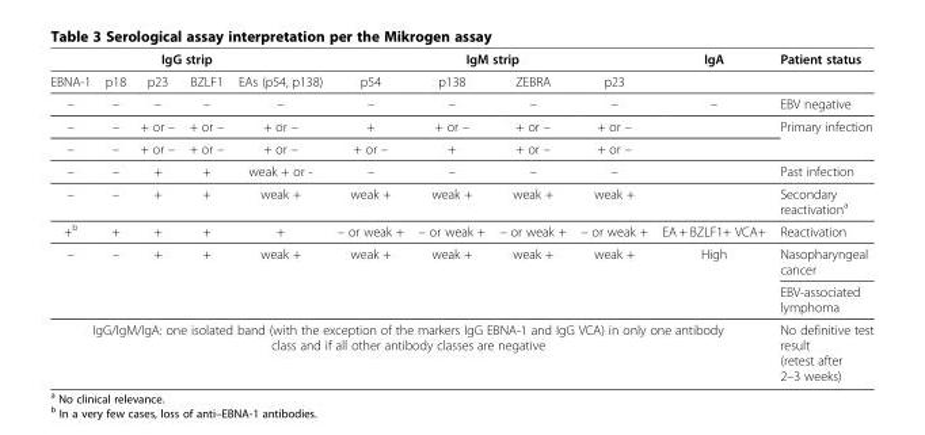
<table><thead><tr><td colspan="5">IgG strip</td><td colspan="4">IgM strip</td><td rowspan="2">IgA</td><td rowspan="2">Patient status</td></tr><tr><td>EBNA-1</td><td>p18</td><td>p23</td><td>BZLF1</td><td>EAs (p54, p138)</td><td>p54</td><td>p138</td><td>ZEBRA</td><td>p23</td></tr></thead><tbody><tr><td>–</td><td>–</td><td>–</td><td>–</td><td>–</td><td>–</td><td>–</td><td>–</td><td>–</td><td>–</td><td>EBV negative</td></tr><tr><td>–</td><td>–</td><td>+ or –</td><td>+ or –</td><td>+ or –</td><td>+</td><td>+ or –</td><td>+ or –</td><td>+ or –</td><td></td><td rowspan="2">Primary infection</td></tr><tr><td>–</td><td>–</td><td>+ or –</td><td>+ or –</td><td>+ or –</td><td>+ or –</td><td>+</td><td>+ or –</td><td>+ or –</td><td></td></tr><tr><td>–</td><td>–</td><td>+</td><td>+</td><td>weak + or -</td><td>–</td><td>–</td><td>–</td><td>–</td><td></td><td>Past infection</td></tr><tr><td>–</td><td>–</td><td>+</td><td>+</td><td>weak +</td><td>weak +</td><td>weak +</td><td>weak +</td><td>weak +</td><td></td><td>Secondary reactivation<sup>a</sup></td></tr><tr><td>+<sup>b</sup></td><td>+</td><td>+</td><td>+</td><td>+</td><td>– or weak +</td><td>– or weak +</td><td>– or weak +</td><td>– or weak +</td><td>EA + BZLF1+ VCA+</td><td>Reactivation</td></tr><tr><td rowspan="2">–</td><td rowspan="2">–</td><td rowspan="2">+</td><td rowspan="2">+</td><td rowspan="2">weak +</td><td rowspan="2">weak +</td><td rowspan="2">weak +</td><td rowspan="2">weak +</td><td rowspan="2">weak +</td><td rowspan="2">High</td><td>Nasopharyngeal cancer</td></tr><tr><td>EBV-associated lymphoma</td></tr><tr><td colspan="10">IgG/IgM/IgA: one isolated band (with the exception of the markers IgG EBNA-1 and IgG VCA) in only one antibody class and if all other antibody classes are negative</td><td>No definitive test result (retest after 2–3 weeks)</td></tr></tbody></table>